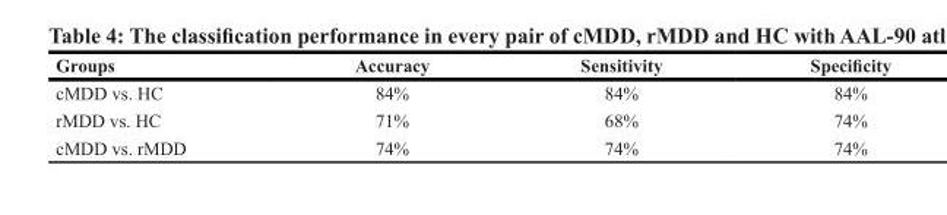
<table><thead><tr><td>Groups</td><td>Accuracy</td><td>Sensitivity</td><td>Specificity</td></tr></thead><tbody><tr><td>cMDD vs. HC</td><td>84%</td><td>84%</td><td>84%</td></tr><tr><td>rMDD vs. HC</td><td>71%</td><td>68%</td><td>74%</td></tr><tr><td>cMDD vs. rMDD</td><td>74%</td><td>74%</td><td>74%</td></tr></tbody></table>